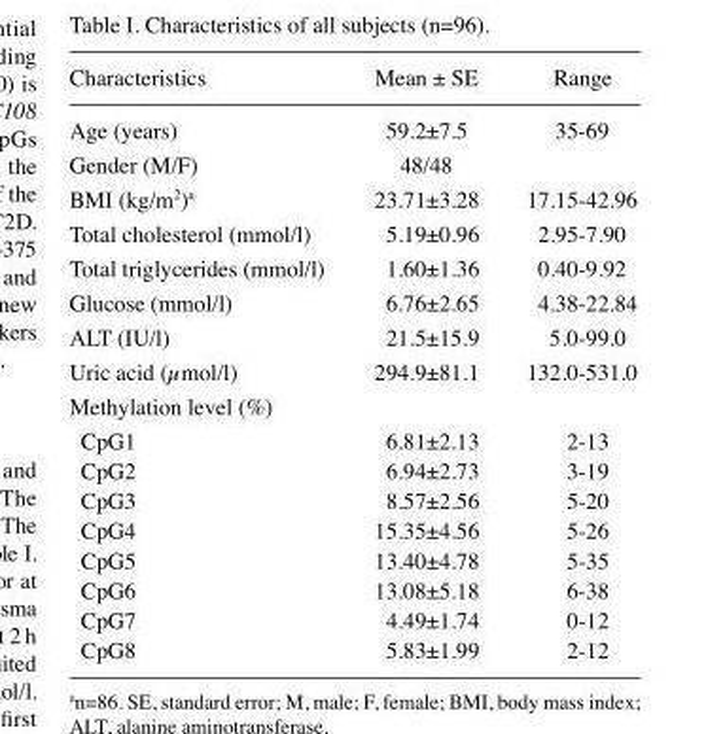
<table><thead><tr><td>Characteristics</td><td>Mean ± SE</td><td>Range</td></tr></thead><tbody><tr><td>Age (years)</td><td>59.2±7.5</td><td>35-69</td></tr><tr><td>Gender (M/F)</td><td>48/48</td><td></td></tr><tr><td>BMI (kg/m<sup>2</sup>)<sup>a</sup></td><td>23.71±3.28</td><td>17.15-42.96</td></tr><tr><td>Total cholesterol (mmol/l)</td><td>5.19±0.96</td><td>2.95-7.90</td></tr><tr><td>Total triglycerides (mmol/l)</td><td>1.60±1.36</td><td>0.40-9.92</td></tr><tr><td>Glucose (mmol/l)</td><td>6.76±2.65</td><td>4.38-22.84</td></tr><tr><td>ALT (IU/l)</td><td>21.5±15.9</td><td>5.0-99.0</td></tr><tr><td>Uric acid (µmol/l)</td><td>294.9±81.1</td><td>132.0-531.0</td></tr><tr><td colspan="3">Methylation level (%)</td></tr><tr><td>CpG1</td><td>6.81±2.13</td><td>2-13</td></tr><tr><td>CpG2</td><td>6.94±2.73</td><td>3-19</td></tr><tr><td>CpG3</td><td>8.57±2.56</td><td>5-20</td></tr><tr><td>CpG4</td><td>15.35±4.56</td><td>5-26</td></tr><tr><td>CpG5</td><td>13.40±4.78</td><td>5-35</td></tr><tr><td>CpG6</td><td>13.08±5.18</td><td>6-38</td></tr><tr><td>CpG7</td><td>4.49±1.74</td><td>0-12</td></tr><tr><td>CpG8</td><td>5.83±1.99</td><td>2-12</td></tr></tbody></table>